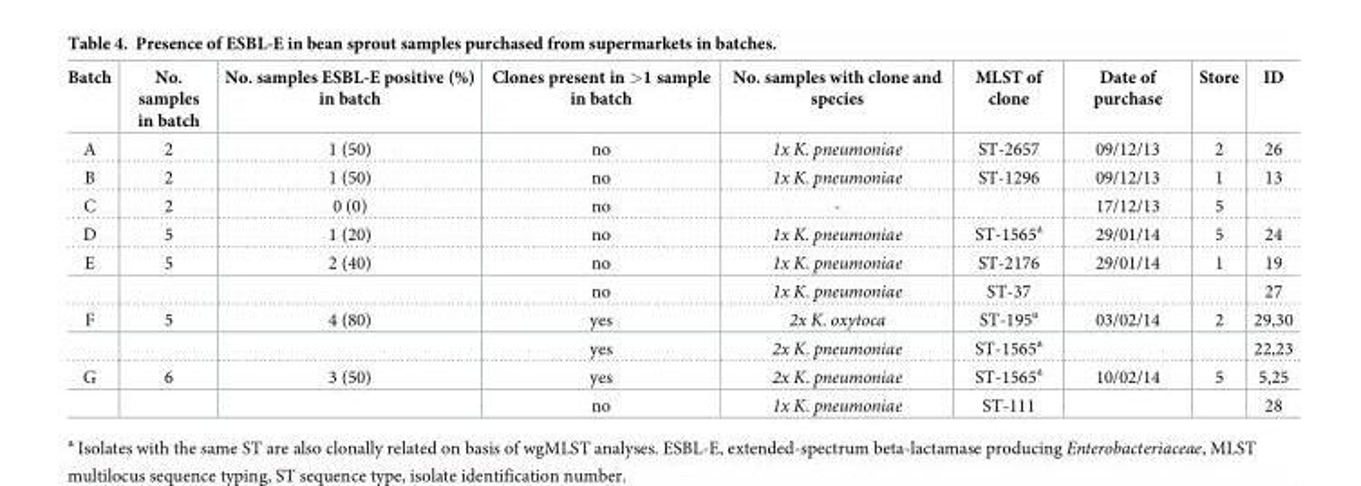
<table><thead><tr><td>Batch</td><td>No. samples in batch</td><td>No. samples ESBL-E positive (%) in batch</td><td>Clones present in &gt;1 sample in batch</td><td>No. samples with clone and species</td><td>MLST of clone</td><td>Date of purchase</td><td>Store</td><td>ID</td></tr></thead><tbody><tr><td>A</td><td>2</td><td>1 (50)</td><td>no</td><td>1x K. pneumoniae</td><td>ST-2657</td><td>09/12/13</td><td>2</td><td>26</td></tr><tr><td>B</td><td>2</td><td>1 (50)</td><td>no</td><td>1x K. pneumoniae</td><td>ST-1296</td><td>09/12/13</td><td>1</td><td>13</td></tr><tr><td>C</td><td>2</td><td>0 (0)</td><td>no</td><td>-</td><td></td><td>17/12/13</td><td>5</td><td></td></tr><tr><td>D</td><td>5</td><td>1 (20)</td><td>no</td><td>1x K. pneumoniae</td><td>ST-1565<sup>a</sup></td><td>29/01/14</td><td>5</td><td>24</td></tr><tr><td rowspan="2">E</td><td>5</td><td>2 (40)</td><td>no</td><td>1x K. pneumoniae</td><td>ST-2176</td><td>29/01/14</td><td>1</td><td>19</td></tr><tr><td></td><td></td><td>no</td><td>1x K. pneumoniae</td><td>ST-37</td><td></td><td></td><td>27</td></tr><tr><td rowspan="2">F</td><td>5</td><td>4 (80)</td><td>yes</td><td>2x K. oxytoca</td><td>ST-195<sup>a</sup></td><td>03/02/14</td><td>2</td><td>29,30</td></tr><tr><td></td><td></td><td>yes</td><td>2x K. pneumoniae</td><td>ST-1565<sup>a</sup></td><td></td><td></td><td>22,23</td></tr><tr><td rowspan="2">G</td><td>6</td><td>3 (50)</td><td>yes</td><td>2x K. pneumoniae</td><td>ST-1565<sup>a</sup></td><td>10/02/14</td><td>5</td><td>5,25</td></tr><tr><td></td><td></td><td>no</td><td>1x K. pneumoniae</td><td>ST-111</td><td></td><td></td><td>28</td></tr></tbody></table>